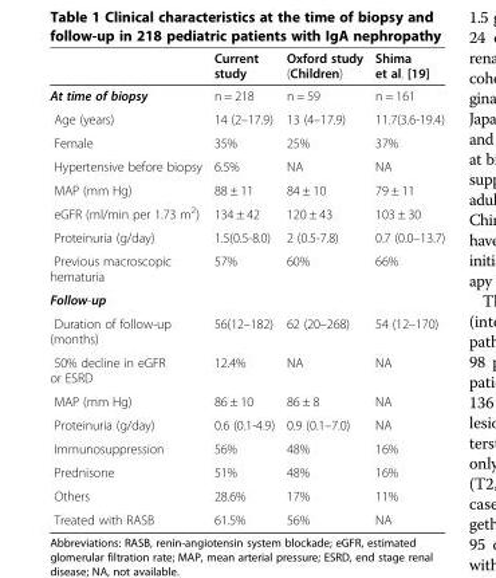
<table><thead><tr><td></td><td>Current study</td><td>Oxford study (Children)</td><td>Shima et al. [19]</td></tr></thead><tbody><tr><td>At time of biopsy</td><td>n = 218</td><td>n = 59</td><td>n = 161</td></tr><tr><td>Age (years)</td><td>14 (2–17.9)</td><td>13 (4–17.9)</td><td>11.7(3.6-19.4)</td></tr><tr><td>Female</td><td>35%</td><td>25%</td><td>37%</td></tr><tr><td>Hypertensive before biopsy</td><td>6.5%</td><td>NA</td><td>NA</td></tr><tr><td>MAP (mm Hg)</td><td>88 ± 11</td><td>84 ± 10</td><td>79 ± 11</td></tr><tr><td>eGFR (ml/min per 1.73 m<sup>2</sup>)</td><td>134 ± 42</td><td>120 ± 43</td><td>103 ± 30</td></tr><tr><td>Proteinuria (g/day)</td><td>1.5(0.5-8.0)</td><td>2 (0.5-7.8)</td><td>0.7 (0.0–13.7)</td></tr><tr><td>Previous macroscopic hematuria</td><td>57%</td><td>60%</td><td>66%</td></tr><tr><td colspan="4">Follow-up</td></tr><tr><td>Duration of follow-up (months)</td><td>56(12–182)</td><td>62 (20–268)</td><td>54 (12–170)</td></tr><tr><td>50% decline in eGFR or ESRD</td><td>12.4%</td><td>NA</td><td>NA</td></tr><tr><td>MAP (mm Hg)</td><td>86 ± 10</td><td>86 ± 8</td><td>NA</td></tr><tr><td>Proteinuria (g/day)</td><td>0.6 (0.1-4.9)</td><td>0.9 (0.1–7.0)</td><td>NA</td></tr><tr><td>Immunosuppression</td><td>56%</td><td>48%</td><td>16%</td></tr><tr><td>Prednisone</td><td>51%</td><td>48%</td><td>16%</td></tr><tr><td>Others</td><td>28.6%</td><td>17%</td><td>11%</td></tr><tr><td>Treated with RASB</td><td>61.5%</td><td>56%</td><td>NA</td></tr></tbody></table>